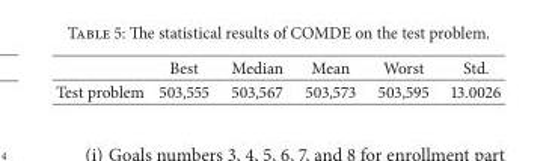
<table><thead><tr><td></td><td>Best</td><td>Median</td><td>Mean</td><td>Worst</td><td>Std.</td></tr></thead><tbody><tr><td>Test problem</td><td>503,555</td><td>503,567</td><td>503,573</td><td>503,595</td><td>13.0026</td></tr></tbody></table>